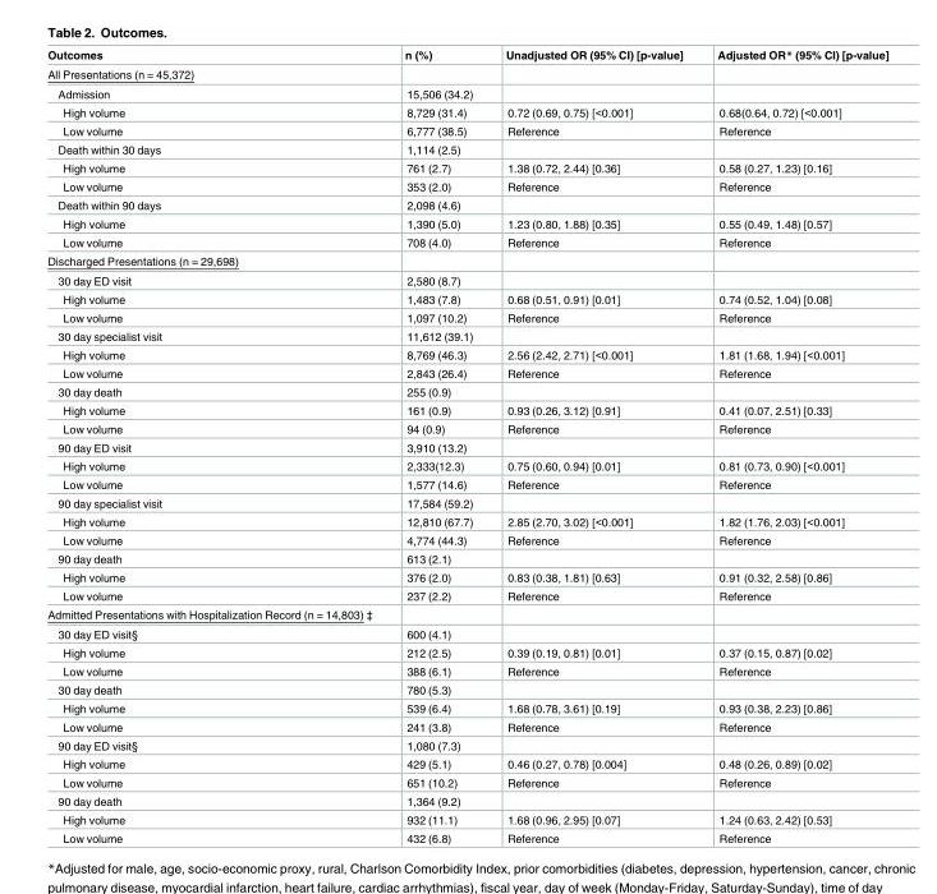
<table><thead><tr><td>Outcomes</td><td>n (%)</td><td>Unadjusted OR (95% CI) [p-value]</td><td>Adjusted OR* (95% CI) [p-value]</td></tr></thead><tbody><tr><td colspan="4">All Presentations (n = 45,372)</td></tr><tr><td>Admission</td><td>15,506 (34.2)</td><td></td><td></td></tr><tr><td>High volume</td><td>8,729 (31.4)</td><td>0.72 (0.69, 0.75) [&lt;0.001]</td><td>0.68(0.64, 0.72) [&lt;0.001]</td></tr><tr><td>Low volume</td><td>6,777 (38.5)</td><td>Reference</td><td>Reference</td></tr><tr><td>Death within 30 days</td><td>1,114 (2.5)</td><td></td><td></td></tr><tr><td>High volume</td><td>761 (2.7)</td><td>1.38 (0.72, 2.44) [0.36]</td><td>0.58 (0.27, 1.23) [0.16]</td></tr><tr><td>Low volume</td><td>353 (2.0)</td><td>Reference</td><td>Reference</td></tr><tr><td>Death within 90 days</td><td>2,098 (4.6)</td><td></td><td></td></tr><tr><td>High volume</td><td>1,390 (5.0)</td><td>1.23 (0.80, 1.88) [0.35]</td><td>0.55 (0.49, 1.48) [0.57]</td></tr><tr><td>Low volume</td><td>708 (4.0)</td><td>Reference</td><td>Reference</td></tr><tr><td colspan="4">Discharged Presentations (n = 29,698)</td></tr><tr><td>30 day ED visit</td><td>2,580 (8.7)</td><td></td><td></td></tr><tr><td>High volume</td><td>1,483 (7.8)</td><td>0.68 (0.51, 0.91) [0.01]</td><td>0.74 (0.52, 1.04) [0.08]</td></tr><tr><td>Low volume</td><td>1,097 (10.2)</td><td>Reference</td><td>Reference</td></tr><tr><td>30 day specialist visit</td><td>11,612 (39.1)</td><td></td><td></td></tr><tr><td>High volume</td><td>8,769 (46.3)</td><td>2.56 (2.42, 2.71) [&lt;0.001]</td><td>1.81 (1.68, 1.94) [&lt;0.001]</td></tr><tr><td>Low volume</td><td>2,843 (26.4)</td><td>Reference</td><td>Reference</td></tr><tr><td>30 day death</td><td>255 (0.9)</td><td></td><td></td></tr><tr><td>High volume</td><td>161 (0.9)</td><td>0.93 (0.26, 3.12) [0.91]</td><td>0.41 (0.07, 2.51) [0.33]</td></tr><tr><td>Low volume</td><td>94 (0.9)</td><td>Reference</td><td>Reference</td></tr><tr><td>90 day ED visit</td><td>3,910 (13.2)</td><td></td><td></td></tr><tr><td>High volume</td><td>2,333(12.3)</td><td>0.75 (0.60, 0.94) [0.01]</td><td>0.81 (0.73, 0.90) [&lt;0.001]</td></tr><tr><td>Low volume</td><td>1,577 (14.6)</td><td>Reference</td><td>Reference</td></tr><tr><td>90 day specialist visit</td><td>17,584 (59.2)</td><td></td><td></td></tr><tr><td>High volume</td><td>12,810 (67.7)</td><td>2.85 (2.70, 3.02) [&lt;0.001]</td><td>1.82 (1.76, 2.03) [&lt;0.001]</td></tr><tr><td>Low volume</td><td>4,774 (44.3)</td><td>Reference</td><td>Reference</td></tr><tr><td>90 day death</td><td>613 (2.1)</td><td></td><td></td></tr><tr><td>High volume</td><td>376 (2.0)</td><td>0.83 (0.38, 1.81) [0.63]</td><td>0.91 (0.32, 2.58) [0.86]</td></tr><tr><td>Low volume</td><td>237 (2.2)</td><td>Reference</td><td>Reference</td></tr><tr><td colspan="4">Admitted Presentations with Hospitalization Record (n = 14,803) ‡</td></tr><tr><td>30 day ED visit§</td><td>600 (4.1)</td><td></td><td></td></tr><tr><td>High volume</td><td>212 (2.5)</td><td>0.39 (0.19, 0.81) [0.01]</td><td>0.37 (0.15, 0.87) [0.02]</td></tr><tr><td>Low volume</td><td>388 (6.1)</td><td>Reference</td><td>Reference</td></tr><tr><td>30 day death</td><td>780 (5.3)</td><td></td><td></td></tr><tr><td>High volume</td><td>539 (6.4)</td><td>1.68 (0.78, 3.61) [0.19]</td><td>0.93 (0.38, 2.23) [0.86]</td></tr><tr><td>Low volume</td><td>241 (3.8)</td><td>Reference</td><td>Reference</td></tr><tr><td>90 day ED visit§</td><td>1,080 (7.3)</td><td></td><td></td></tr><tr><td>High volume</td><td>429 (5.1)</td><td>0.46 (0.27, 0.78) [0.004]</td><td>0.48 (0.26, 0.89) [0.02]</td></tr><tr><td>Low volume</td><td>651 (10.2)</td><td>Reference</td><td>Reference</td></tr><tr><td>90 day death</td><td>1,364 (9.2)</td><td></td><td></td></tr><tr><td>High volume</td><td>932 (11.1)</td><td>1.68 (0.96, 2.95) [0.07]</td><td>1.24 (0.63, 2.42) [0.53]</td></tr><tr><td>Low volume</td><td>432 (6.8)</td><td>Reference</td><td>Reference</td></tr></tbody></table>